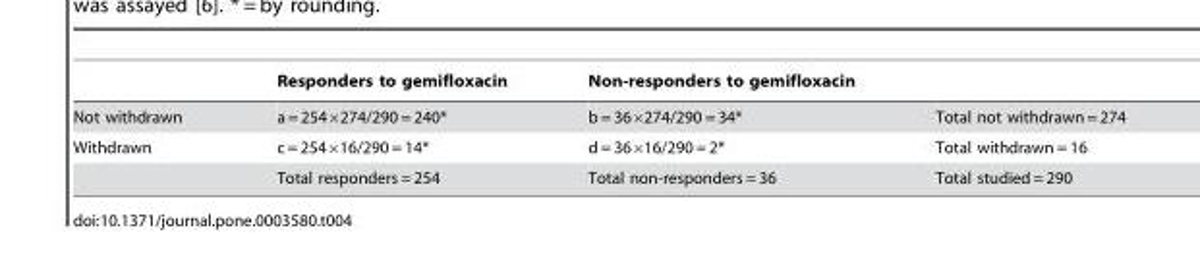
<table><thead><tr><td></td><td>Responders to gemifloxacin</td><td>Non-responders to gemifloxacin</td><td></td></tr></thead><tbody><tr><td>Not withdrawn</td><td>a = 254×274/290 = 240*</td><td>b = 36×274/290 = 34*</td><td>Total not withdrawn = 274</td></tr><tr><td rowspan="2">Withdrawn</td><td>c = 254×16/290 = 14*</td><td>d = 36×16/290 = 2*</td><td>Total withdrawn = 16</td></tr><tr><td>Total responders = 254</td><td>Total non-responders = 36</td><td>Total studied = 290</td></tr></tbody></table>